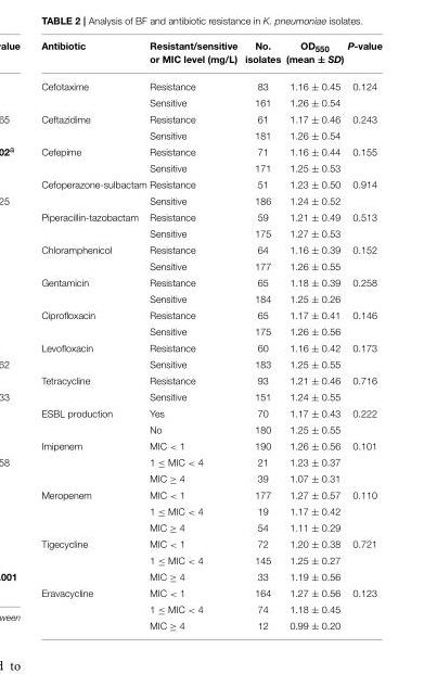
<table><thead><tr><td>Antibiotic</td><td>Resistant/sensitive or MIC level (mg/L)</td><td>No. isolates</td><td>OD<sub>550</sub> (mean ± SD)</td><td>P-value</td></tr></thead><tbody><tr><td rowspan="2">Cefotaxime</td><td>Resistance</td><td>83</td><td>1.16 ± 0.45</td><td>0.124</td></tr><tr><td>Sensitive</td><td>161</td><td>1.26 ± 0.54</td><td></td></tr><tr><td rowspan="2">Ceftazidime</td><td>Resistance</td><td>61</td><td>1.17 ± 0.46</td><td>0.243</td></tr><tr><td>Sensitive</td><td>181</td><td>1.26 ± 0.54</td><td></td></tr><tr><td rowspan="2">Cefepime</td><td>Resistance</td><td>71</td><td>1.16 ± 0.44</td><td>0.155</td></tr><tr><td>Sensitive</td><td>171</td><td>1.25 ± 0.53</td><td></td></tr><tr><td rowspan="2">Cefoperazone-sulbactam</td><td>Resistance</td><td>51</td><td>1.23 ± 0.50</td><td>0.914</td></tr><tr><td>Sensitive</td><td>186</td><td>1.24 ± 0.52</td><td></td></tr><tr><td rowspan="2">Piperacillin-tazobactam</td><td>Resistance</td><td>59</td><td>1.21 ± 0.49</td><td>0.513</td></tr><tr><td>Sensitive</td><td>175</td><td>1.27 ± 0.53</td><td></td></tr><tr><td rowspan="2">Chloramphenicol</td><td>Resistance</td><td>64</td><td>1.16 ± 0.39</td><td>0.152</td></tr><tr><td>Sensitive</td><td>177</td><td>1.26 ± 0.55</td><td></td></tr><tr><td rowspan="2">Gentamicin</td><td>Resistance</td><td>65</td><td>1.18 ± 0.39</td><td>0.258</td></tr><tr><td>Sensitive</td><td>184</td><td>1.25 ± 0.26</td><td></td></tr><tr><td rowspan="2">Ciprofloxacin</td><td>Resistance</td><td>65</td><td>1.17 ± 0.41</td><td>0.146</td></tr><tr><td>Sensitive</td><td>175</td><td>1.26 ± 0.56</td><td></td></tr><tr><td rowspan="2">Levofloxacin</td><td>Resistance</td><td>60</td><td>1.16 ± 0.42</td><td>0.173</td></tr><tr><td>Sensitive</td><td>183</td><td>1.25 ± 0.55</td><td></td></tr><tr><td rowspan="2">Tetracycline</td><td>Resistance</td><td>93</td><td>1.21 ± 0.46</td><td>0.716</td></tr><tr><td>Sensitive</td><td>151</td><td>1.24 ± 0.55</td><td></td></tr><tr><td rowspan="2">ESBL production</td><td>Yes</td><td>70</td><td>1.17 ± 0.43</td><td>0.222</td></tr><tr><td>No</td><td>180</td><td>1.25 ± 0.55</td><td></td></tr><tr><td rowspan="3">Imipenem</td><td>MIC &lt; 1</td><td>190</td><td>1.26 ± 0.56</td><td>0.101</td></tr><tr><td>1 ≤ MIC &lt; 4</td><td>21</td><td>1.23 ± 0.37</td><td></td></tr><tr><td>MIC ≥ 4</td><td>39</td><td>1.07 ± 0.31</td><td></td></tr><tr><td rowspan="3">Meropenem</td><td>MIC &lt; 1</td><td>177</td><td>1.27 ± 0.57</td><td>0.110</td></tr><tr><td>1 ≤ MIC &lt; 4</td><td>19</td><td>1.17 ± 0.42</td><td></td></tr><tr><td>MIC ≥ 4</td><td>54</td><td>1.11 ± 0.29</td><td></td></tr><tr><td rowspan="3">Tigecycline</td><td>MIC &lt; 1</td><td>72</td><td>1.20 ± 0.38</td><td>0.721</td></tr><tr><td>1 ≤ MIC &lt; 4</td><td>145</td><td>1.25 ± 0.27</td><td></td></tr><tr><td>MIC ≥ 4</td><td>33</td><td>1.19 ± 0.56</td><td></td></tr><tr><td rowspan="3">Eravacycline</td><td>MIC &lt; 1</td><td>164</td><td>1.27 ± 0.56</td><td>0.123</td></tr><tr><td>1 ≤ MIC &lt; 4</td><td>74</td><td>1.18 ± 0.45</td><td></td></tr><tr><td>MIC ≥ 4</td><td>12</td><td>0.99 ± 0.20</td><td></td></tr></tbody></table>